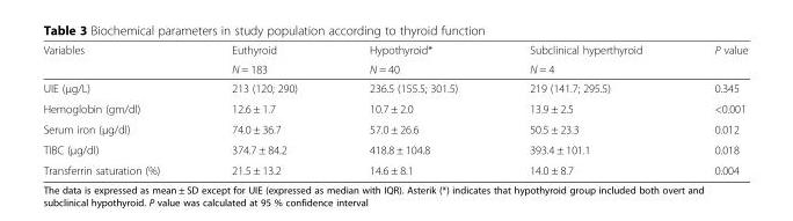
<table><thead><tr><td rowspan="2">Variables</td><td rowspan="2">Euthyroid N = 183</td><td rowspan="2">Hypothyroid* N = 40</td><td rowspan="2">Subclinical hyperthyroid N = 4</td><td rowspan="2">P value</td></tr><tr></tr></thead><tbody><tr><td>UIE (μg/L)</td><td>213 (120; 290)</td><td>236.5 (155.5; 301.5)</td><td>219 (141.7; 295.5)</td><td>0.345</td></tr><tr><td>Hemoglobin (gm/dl)</td><td>12.6 ± 1.7</td><td>10.7 ± 2.0</td><td>13.9 ± 2.5</td><td>&lt;0.001</td></tr><tr><td>Serum iron (μg/dl)</td><td>74.0 ± 36.7</td><td>57.0 ± 26.6</td><td>50.5 ± 23.3</td><td>0.012</td></tr><tr><td>TIBC (μg/dl)</td><td>374.7 ± 84.2</td><td>418.8 ± 104.8</td><td>393.4 ± 101.1</td><td>0.018</td></tr><tr><td>Transferrin saturation (%)</td><td>21.5 ± 13.2</td><td>14.6 ± 8.1</td><td>14.0 ± 8.7</td><td>0.004</td></tr></tbody></table>